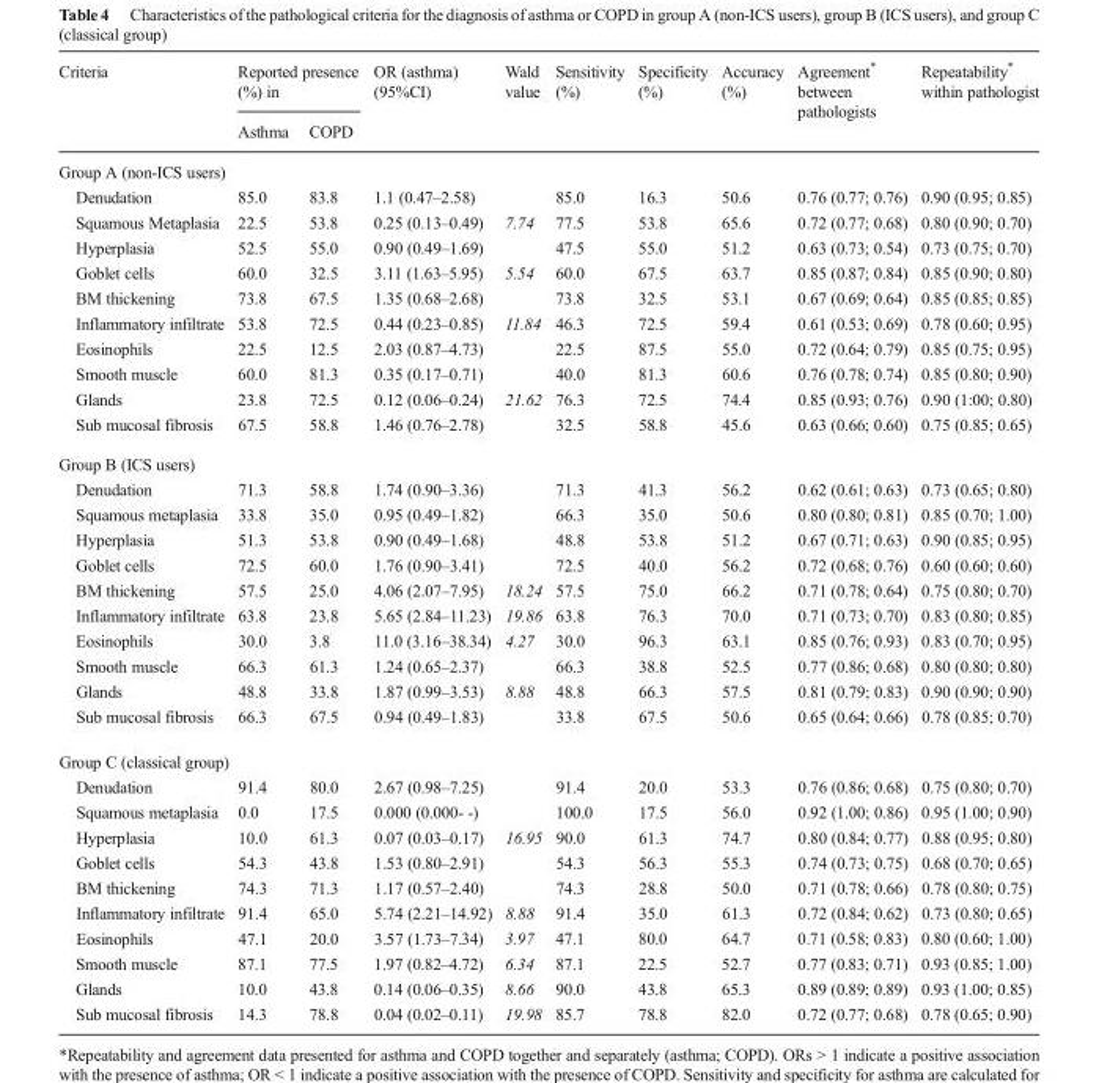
<table><thead><tr><td rowspan="2">Criteria</td><td colspan="2">Reported presence (%) in</td><td rowspan="2">OR (asthma) (95%CI)</td><td rowspan="2">Wald value</td><td rowspan="2">Sensitivity (%)</td><td rowspan="2">Specificity (%)</td><td rowspan="2">Accuracy (%)</td><td rowspan="2">Agreement* between pathologists</td><td rowspan="2">Repeatability* within pathologist</td></tr><tr><td>Asthma</td><td>COPD</td></tr></thead><tbody><tr><td colspan="10">Group A (non-ICS users)</td></tr><tr><td>Denudation</td><td>85.0</td><td>83.8</td><td>1.1 (0.47–2.58)</td><td></td><td>85.0</td><td>16.3</td><td>50.6</td><td>0.76 (0.77; 0.76)</td><td>0.90 (0.95; 0.85)</td></tr><tr><td>Squamous Metaplasia</td><td>22.5</td><td>53.8</td><td>0.25 (0.13–0.49)</td><td>7.74</td><td>77.5</td><td>53.8</td><td>65.6</td><td>0.72 (0.77; 0.68)</td><td>0.80 (0.90; 0.70)</td></tr><tr><td>Hyperplasia</td><td>52.5</td><td>55.0</td><td>0.90 (0.49–1.69)</td><td></td><td>47.5</td><td>55.0</td><td>51.2</td><td>0.63 (0.73; 0.54)</td><td>0.73 (0.75; 0.70)</td></tr><tr><td>Goblet cells</td><td>60.0</td><td>32.5</td><td>3.11 (1.63–5.95)</td><td>5.54</td><td>60.0</td><td>67.5</td><td>63.7</td><td>0.85 (0.87; 0.84)</td><td>0.85 (0.90; 0.80)</td></tr><tr><td>BM thickening</td><td>73.8</td><td>67.5</td><td>1.35 (0.68–2.68)</td><td></td><td>73.8</td><td>32.5</td><td>53.1</td><td>0.67 (0.69; 0.64)</td><td>0.85 (0.85; 0.85)</td></tr><tr><td>Inflammatory infiltrate</td><td>53.8</td><td>72.5</td><td>0.44 (0.23–0.85)</td><td>11.84</td><td>46.3</td><td>72.5</td><td>59.4</td><td>0.61 (0.53; 0.69)</td><td>0.78 (0.60; 0.95)</td></tr><tr><td>Eosinophils</td><td>22.5</td><td>12.5</td><td>2.03 (0.87–4.73)</td><td></td><td>22.5</td><td>87.5</td><td>55.0</td><td>0.72 (0.64; 0.79)</td><td>0.85 (0.75; 0.95)</td></tr><tr><td>Smooth muscle</td><td>60.0</td><td>81.3</td><td>0.35 (0.17–0.71)</td><td></td><td>40.0</td><td>81.3</td><td>60.6</td><td>0.76 (0.78; 0.74)</td><td>0.85 (0.80; 0.90)</td></tr><tr><td>Glands</td><td>23.8</td><td>72.5</td><td>0.12 (0.06–0.24)</td><td>21.62</td><td>76.3</td><td>72.5</td><td>74.4</td><td>0.85 (0.93; 0.76)</td><td>0.90 (1:00; 0.80)</td></tr><tr><td>Sub mucosal fibrosis</td><td>67.5</td><td>58.8</td><td>1.46 (0.76–2.78)</td><td></td><td>32.5</td><td>58.8</td><td>45.6</td><td>0.63 (0.66; 0.60)</td><td>0.75 (0.85; 0.65)</td></tr><tr><td colspan="10">Group B (ICS users)</td></tr><tr><td>Denudation</td><td>71.3</td><td>58.8</td><td>1.74 (0.90–3.36)</td><td></td><td>71.3</td><td>41.3</td><td>56.2</td><td>0.62 (0.61; 0.63)</td><td>0.73 (0.65; 0.80)</td></tr><tr><td>Squamous metaplasia</td><td>33.8</td><td>35.0</td><td>0.95 (0.49–1.82)</td><td></td><td>66.3</td><td>35.0</td><td>50.6</td><td>0.80 (0.80; 0.81)</td><td>0.85 (0.70; 1.00)</td></tr><tr><td>Hyperplasia</td><td>51.3</td><td>53.8</td><td>0.90 (0.49–1.68)</td><td></td><td>48.8</td><td>53.8</td><td>51.2</td><td>0.67 (0.71; 0.63)</td><td>0.90 (0.85; 0.95)</td></tr><tr><td>Goblet cells</td><td>72.5</td><td>60.0</td><td>1.76 (0.90–3.41)</td><td></td><td>72.5</td><td>40.0</td><td>56.2</td><td>0.72 (0.68; 0.76)</td><td>0.60 (0.60; 0.60)</td></tr><tr><td>BM thickening</td><td>57.5</td><td>25.0</td><td>4.06 (2.07–7.95)</td><td>18.24</td><td>57.5</td><td>75.0</td><td>66.2</td><td>0.71 (0.78; 0.64)</td><td>0.75 (0.80; 0.70)</td></tr><tr><td>Inflammatory infiltrate</td><td>63.8</td><td>23.8</td><td>5.65 (2.84–11.23)</td><td>19.86</td><td>63.8</td><td>76.3</td><td>70.0</td><td>0.71 (0.73; 0.70)</td><td>0.83 (0.80; 0.85)</td></tr><tr><td>Eosinophils</td><td>30.0</td><td>3.8</td><td>11.0 (3.16–38.34)</td><td>4.27</td><td>30.0</td><td>96.3</td><td>63.1</td><td>0.85 (0.76; 0.93)</td><td>0.83 (0.70; 0.95)</td></tr><tr><td>Smooth muscle</td><td>66.3</td><td>61.3</td><td>1.24 (0.65–2.37)</td><td></td><td>66.3</td><td>38.8</td><td>52.5</td><td>0.77 (0.86; 0.68)</td><td>0.80 (0.80; 0.80)</td></tr><tr><td>Glands</td><td>48.8</td><td>33.8</td><td>1.87 (0.99–3.53)</td><td>8.88</td><td>48.8</td><td>66.3</td><td>57.5</td><td>0.81 (0.79; 0.83)</td><td>0.90 (0.90; 0.90)</td></tr><tr><td>Sub mucosal fibrosis</td><td>66.3</td><td>67.5</td><td>0.94 (0.49–1.83)</td><td></td><td>33.8</td><td>67.5</td><td>50.6</td><td>0.65 (0.64; 0.66)</td><td>0.78 (0.85; 0.70)</td></tr><tr><td colspan="10">Group C (classical group)</td></tr><tr><td>Denudation</td><td>91.4</td><td>80.0</td><td>2.67 (0.98–7.25)</td><td></td><td>91.4</td><td>20.0</td><td>53.3</td><td>0.76 (0.86; 0.68)</td><td>0.75 (0.80; 0.70)</td></tr><tr><td>Squamous metaplasia</td><td>0.0</td><td>17.5</td><td>0.000 (0.000- -)</td><td></td><td>100.0</td><td>17.5</td><td>56.0</td><td>0.92 (1.00; 0.86)</td><td>0.95 (1.00; 0.90)</td></tr><tr><td>Hyperplasia</td><td>10.0</td><td>61.3</td><td>0.07 (0.03–0.17)</td><td>16.95</td><td>90.0</td><td>61.3</td><td>74.7</td><td>0.80 (0.84; 0.77)</td><td>0.88 (0.95; 0.80)</td></tr><tr><td>Goblet cells</td><td>54.3</td><td>43.8</td><td>1.53 (0.80–2.91)</td><td></td><td>54.3</td><td>56.3</td><td>55.3</td><td>0.74 (0.73; 0.75)</td><td>0.68 (0.70; 0.65)</td></tr><tr><td>BM thickening</td><td>74.3</td><td>71.3</td><td>1.17 (0.57–2.40)</td><td></td><td>74.3</td><td>28.8</td><td>50.0</td><td>0.71 (0.78; 0.66)</td><td>0.78 (0.80; 0.75)</td></tr><tr><td>Inflammatory infiltrate</td><td>91.4</td><td>65.0</td><td>5.74 (2.21–14.92)</td><td>8.88</td><td>91.4</td><td>35.0</td><td>61.3</td><td>0.72 (0.84; 0.62)</td><td>0.73 (0.80; 0.65)</td></tr><tr><td>Eosinophils</td><td>47.1</td><td>20.0</td><td>3.57 (1.73–7.34)</td><td>3.97</td><td>47.1</td><td>80.0</td><td>64.7</td><td>0.71 (0.58; 0.83)</td><td>0.80 (0.60; 1.00)</td></tr><tr><td>Smooth muscle</td><td>87.1</td><td>77.5</td><td>1.97 (0.82–4.72)</td><td>6.34</td><td>87.1</td><td>22.5</td><td>52.7</td><td>0.77 (0.83; 0.71)</td><td>0.93 (0.85; 1.00)</td></tr><tr><td>Glands</td><td>10.0</td><td>43.8</td><td>0.14 (0.06–0.35)</td><td>8.66</td><td>90.0</td><td>43.8</td><td>65.3</td><td>0.89 (0.89; 0.89)</td><td>0.93 (1.00; 0.85)</td></tr><tr><td>Sub mucosal fibrosis</td><td>14.3</td><td>78.8</td><td>0.04 (0.02–0.11)</td><td>19.98</td><td>85.7</td><td>78.8</td><td>82.0</td><td>0.72 (0.77; 0.68)</td><td>0.78 (0.65; 0.90)</td></tr></tbody></table>